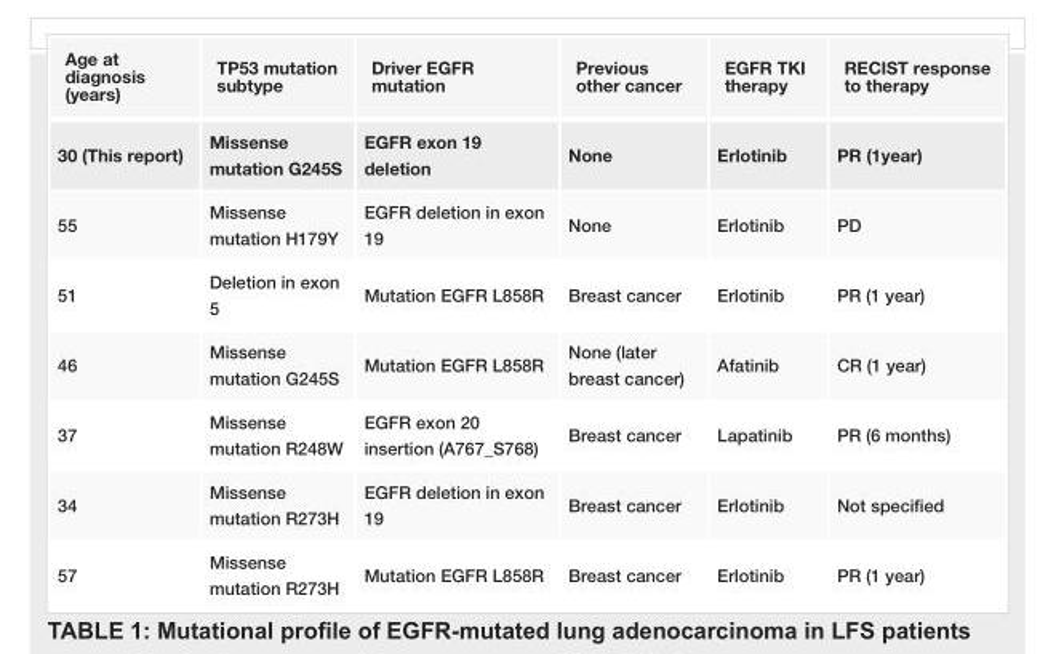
<table><thead><tr><td>Age at diagnosis (years)</td><td>TP53 mutation subtype</td><td>Driver EGFR mutation</td><td>Previous other cancer</td><td>EGFR TKI therapy</td><td>RECIST response to therapy</td></tr></thead><tbody><tr><td>30 (This report)</td><td>Missense mutation G245S</td><td>EGFR exon 19 deletion</td><td>None</td><td>Erlotinib</td><td>PR (1year)</td></tr><tr><td>55</td><td>Missense mutation H179Y</td><td>EGFR deletion in exon 19</td><td>None</td><td>Erlotinib</td><td>PD</td></tr><tr><td>51</td><td>Deletion in exon 5</td><td>Mutation EGFR L858R</td><td>Breast cancer</td><td>Erlotinib</td><td>PR (1 year)</td></tr><tr><td>46</td><td>Missense mutation G245S</td><td>Mutation EGFR L858R</td><td>None (later breast cancer)</td><td>Afatinib</td><td>CR (1 year)</td></tr><tr><td>37</td><td>Missense mutation R248W</td><td>EGFR exon 20 insertion (A767_S768)</td><td>Breast cancer</td><td>Lapatinib</td><td>PR (6 months)</td></tr><tr><td>34</td><td>Missense mutation R273H</td><td>EGFR deletion in exon 19</td><td>Breast cancer</td><td>Erlotinib</td><td>Not specified</td></tr><tr><td>57</td><td>Missense mutation R273H</td><td>Mutation EGFR L858R</td><td>Breast cancer</td><td>Erlotinib</td><td>PR (1 year)</td></tr></tbody></table>